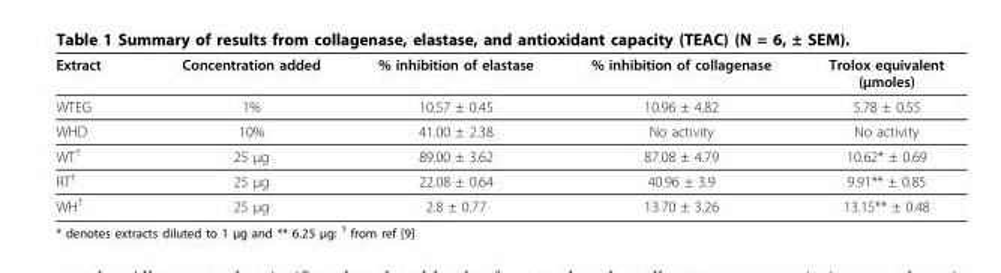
<table><thead><tr><td>Extract</td><td>Concentration added</td><td>% inhibition of elastase</td><td>% inhibition of collagenase</td><td>Trolox equivalent (μmoles)</td></tr></thead><tbody><tr><td>WTEG</td><td>1%</td><td>10.57 ± 0.45</td><td>10.96 ± 4.82</td><td>5.78 ± 0.55</td></tr><tr><td>WHD</td><td>10%</td><td>41.00 ± 2.38</td><td>No activity</td><td>No activity</td></tr><tr><td>WT<sup>†</sup></td><td>25 μg</td><td>89.00 ± 3.62</td><td>87.08 ± 4.79</td><td>10.62* ± 0.69</td></tr><tr><td>RT<sup>†</sup></td><td>25 μg</td><td>22.08 ± 0.64</td><td>40.96 ± 3.9</td><td>9.91** ± 0.85</td></tr><tr><td>WH<sup>†</sup></td><td>25 μg</td><td>2.8 ± 0.77</td><td>13.70 ± 3.26</td><td>13.15** ± 0.48</td></tr></tbody></table>